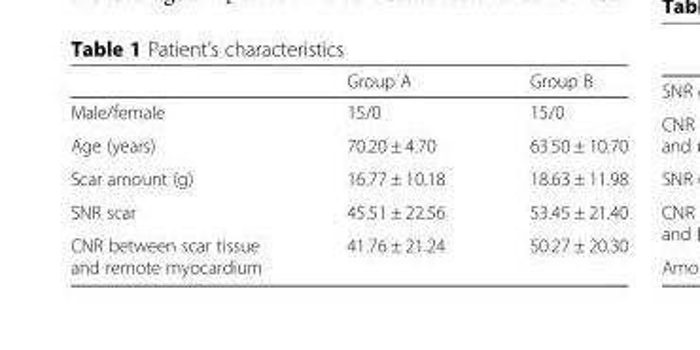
<table><thead><tr><td></td><td>Group A</td><td>Group B</td></tr></thead><tbody><tr><td>Male/female</td><td>15/0</td><td>15/0</td></tr><tr><td>Age (years)</td><td>70.20 ± 4.70</td><td>63.50 ± 10.70</td></tr><tr><td>Scar amount (g)</td><td>16.77 ± 10.18</td><td>18.63 ± 11.98</td></tr><tr><td>SNR scar</td><td>45.51 ± 22.56</td><td>53.45 ± 21.40</td></tr><tr><td>CNR between scar tissue and remote myocardium</td><td>41.76 ± 21.24</td><td>50.27 ± 20.30</td></tr></tbody></table>